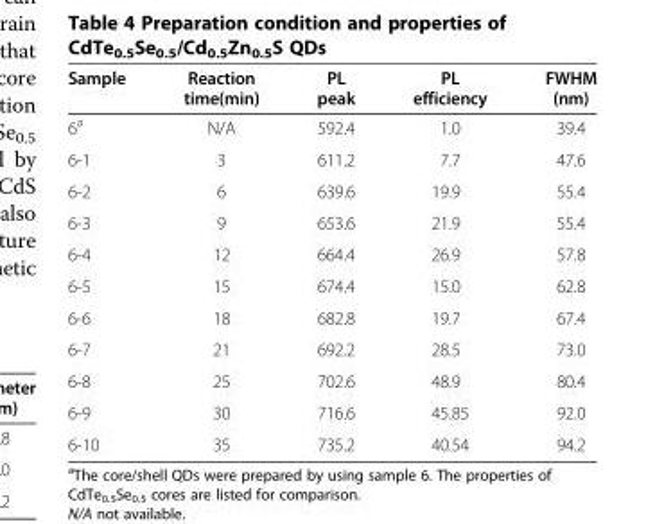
<table><thead><tr><td>Sample</td><td>Reaction time(min)</td><td>PL peak</td><td>PL efficiency</td><td>FWHM (nm)</td></tr></thead><tbody><tr><td>6<sup>a</sup></td><td>N/A</td><td>592.4</td><td>1.0</td><td>39.4</td></tr><tr><td>6-1</td><td>3</td><td>611.2</td><td>7.7</td><td>47.6</td></tr><tr><td>6-2</td><td>6</td><td>639.6</td><td>19.9</td><td>55.4</td></tr><tr><td>6-3</td><td>9</td><td>653.6</td><td>21.9</td><td>55.4</td></tr><tr><td>6-4</td><td>12</td><td>664.4</td><td>26.9</td><td>57.8</td></tr><tr><td>6-5</td><td>15</td><td>674.4</td><td>15.0</td><td>62.8</td></tr><tr><td>6-6</td><td>18</td><td>682.8</td><td>19.7</td><td>67.4</td></tr><tr><td>6-7</td><td>21</td><td>692.2</td><td>28.5</td><td>73.0</td></tr><tr><td>6-8</td><td>25</td><td>702.6</td><td>48.9</td><td>80.4</td></tr><tr><td>6-9</td><td>30</td><td>716.6</td><td>45.85</td><td>92.0</td></tr><tr><td>6-10</td><td>35</td><td>735.2</td><td>40.54</td><td>94.2</td></tr></tbody></table>